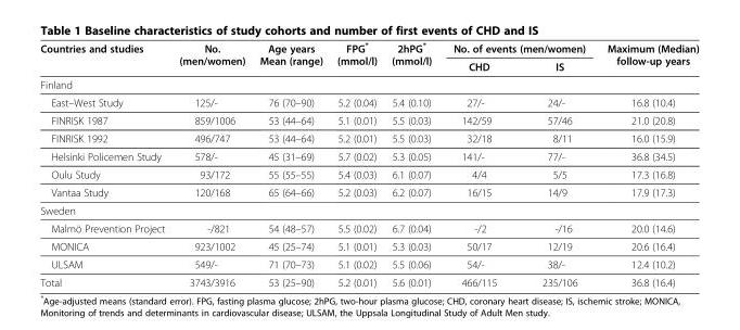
<table><thead><tr><td rowspan="2">Countries and studies</td><td rowspan="2">No. (men/women)</td><td rowspan="2">Age years Mean (range)</td><td rowspan="2">FPG* (mmol/l)</td><td rowspan="2">2hPG* (mmol/l)</td><td colspan="2">No. of events (men/women)</td><td rowspan="2">Maximum (Median) follow-up years</td></tr><tr><td>CHD</td><td>IS</td></tr></thead><tbody><tr><td colspan="8">Finland</td></tr><tr><td>East–West Study</td><td>125/-</td><td>76 (70–90)</td><td>5.2 (0.04)</td><td>5.4 (0.10)</td><td>27/-</td><td>24/-</td><td>16.8 (10.4)</td></tr><tr><td>FINRISK 1987</td><td>859/1006</td><td>53 (44–64)</td><td>5.1 (0.01)</td><td>5.5 (0.03)</td><td>142/59</td><td>57/46</td><td>21.0 (20.8)</td></tr><tr><td>FINRISK 1992</td><td>496/747</td><td>53 (44–64)</td><td>5.2 (0.01)</td><td>5.5 (0.03)</td><td>32/18</td><td>8/11</td><td>16.0 (15.9)</td></tr><tr><td>Helsinki Policemen Study</td><td>578/-</td><td>45 (31–69)</td><td>5.7 (0.02)</td><td>5.3 (0.05)</td><td>141/-</td><td>77/-</td><td>36.8 (34.5)</td></tr><tr><td>Oulu Study</td><td>93/172</td><td>55 (55–55)</td><td>5.4 (0.03)</td><td>6.1 (0.07)</td><td>4/4</td><td>5/5</td><td>17.3 (16.8)</td></tr><tr><td>Vantaa Study</td><td>120/168</td><td>65 (64–66)</td><td>5.2 (0.03)</td><td>6.2 (0.07)</td><td>16/15</td><td>14/9</td><td>17.9 (17.3)</td></tr><tr><td colspan="8">Sweden</td></tr><tr><td>Malmö Prevention Project</td><td>-/821</td><td>54 (48–57)</td><td>5.5 (0.02)</td><td>6.7 (0.04)</td><td>-/2</td><td>-/16</td><td>20.0 (14.6)</td></tr><tr><td>MONICA</td><td>923/1002</td><td>45 (25–74)</td><td>5.1 (0.01)</td><td>5.3 (0.03)</td><td>50/17</td><td>12/19</td><td>20.6 (16.4)</td></tr><tr><td>ULSAM</td><td>549/-</td><td>71 (70–73)</td><td>5.1 (0.02)</td><td>5.5 (0.06)</td><td>54/-</td><td>38/-</td><td>12.4 (10.2)</td></tr><tr><td>Total</td><td>3743/3916</td><td>53 (25–90)</td><td>5.2 (0.01)</td><td>5.6 (0.01)</td><td>466/115</td><td>235/106</td><td>36.8 (16.4)</td></tr></tbody></table>